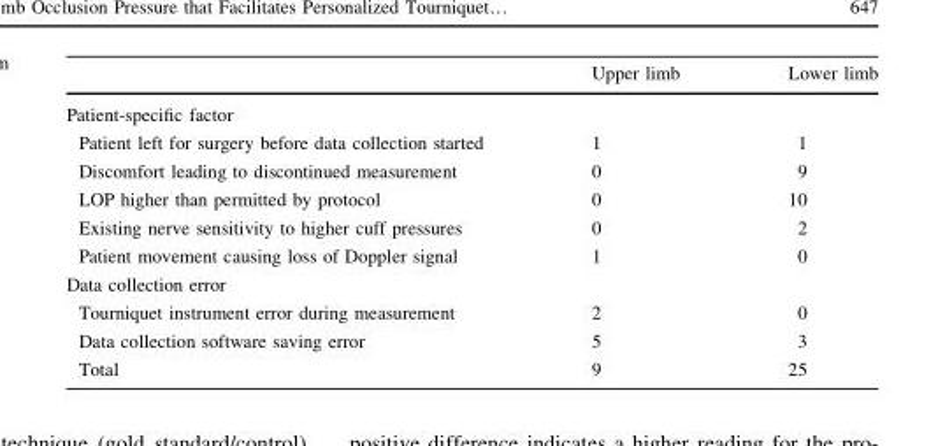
<table><thead><tr><td></td><td>Upper limb</td><td>Lower limb</td></tr></thead><tbody><tr><td colspan="3">Patient-specific factor</td></tr><tr><td>Patient left for surgery before data collection started</td><td>1</td><td>1</td></tr><tr><td>Discomfort leading to discontinued measurement</td><td>0</td><td>9</td></tr><tr><td>LOP higher than permitted by protocol</td><td>0</td><td>10</td></tr><tr><td>Existing nerve sensitivity to higher cuff pressures</td><td>0</td><td>2</td></tr><tr><td>Patient movement causing loss of Doppler signal</td><td>1</td><td>0</td></tr><tr><td colspan="3">Data collection error</td></tr><tr><td>Tourniquet instrument error during measurement</td><td>2</td><td>0</td></tr><tr><td>Data collection software saving error</td><td>5</td><td>3</td></tr><tr><td>Total</td><td>9</td><td>25</td></tr></tbody></table>